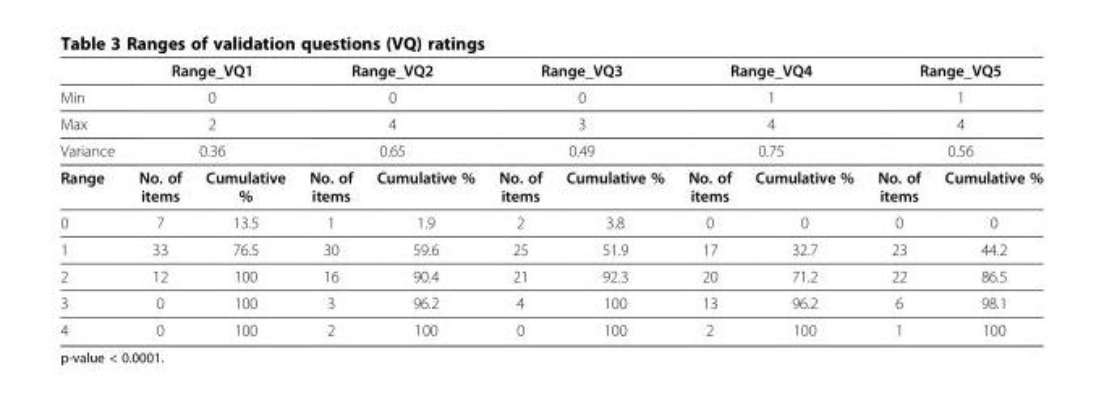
<table><thead><tr><td></td><td colspan="2">Range_VQ1</td><td colspan="2">Range_VQ2</td><td colspan="2">Range_VQ3</td><td colspan="2">Range_VQ4</td><td colspan="2">Range_VQ5</td></tr></thead><tbody><tr><td>Min</td><td colspan="2">0</td><td colspan="2">0</td><td colspan="2">0</td><td colspan="2">1</td><td colspan="2">1</td></tr><tr><td>Max</td><td colspan="2">2</td><td colspan="2">4</td><td colspan="2">3</td><td colspan="2">4</td><td colspan="2">4</td></tr><tr><td>Variance</td><td colspan="2">0.36</td><td colspan="2">0.65</td><td colspan="2">0.49</td><td colspan="2">0.75</td><td colspan="2">0.56</td></tr><tr><td>Range</td><td>No. of items</td><td>Cumulative %</td><td>No. of items</td><td>Cumulative %</td><td>No. of items</td><td>Cumulative %</td><td>No. of items</td><td>Cumulative %</td><td>No. of items</td><td>Cumulative %</td></tr><tr><td>0</td><td>7</td><td>13.5</td><td>1</td><td>1.9</td><td>2</td><td>3.8</td><td>0</td><td>0</td><td>0</td><td>0</td></tr><tr><td>1</td><td>33</td><td>76.5</td><td>30</td><td>59.6</td><td>25</td><td>51.9</td><td>17</td><td>32.7</td><td>23</td><td>44.2</td></tr><tr><td>2</td><td>12</td><td>100</td><td>16</td><td>90.4</td><td>21</td><td>92.3</td><td>20</td><td>71.2</td><td>22</td><td>86.5</td></tr><tr><td>3</td><td>0</td><td>100</td><td>3</td><td>96.2</td><td>4</td><td>100</td><td>13</td><td>96.2</td><td>6</td><td>98.1</td></tr><tr><td>4</td><td>0</td><td>100</td><td>2</td><td>100</td><td>0</td><td>100</td><td>2</td><td>100</td><td>1</td><td>100</td></tr></tbody></table>